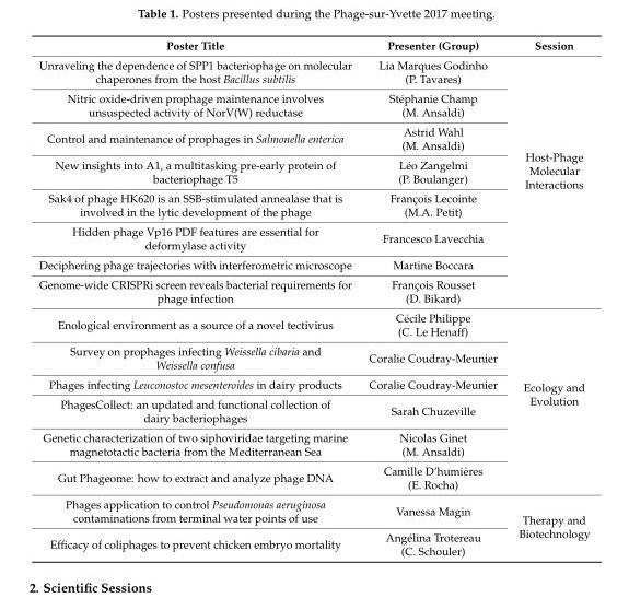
<table><thead><tr><td>Poster Title</td><td>Presenter (Group)</td><td>Session</td></tr></thead><tbody><tr><td>Unraveling the dependence of SPP1 bacteriophage on molecular chaperones from the host Bacillus subtilis</td><td>Lia Marques Godinho (P. Tavares)</td><td rowspan="8">Host-Phage Molecular Interactions</td></tr><tr><td>Nitric oxide-driven prophage maintenance involves unsuspected activity of NorV(W) reductase</td><td>Stéphanie Champ (M. Ansaldi)</td></tr><tr><td>Control and maintenance of prophages in Salmonella enterica</td><td>Astrid Wahl (M. Ansaldi)</td></tr><tr><td>New insights into A1, a multitasking pre-early protein of bacteriophage T5</td><td>Léo Zangelmi (P. Boulanger)</td></tr><tr><td>Sak4 of phage HK620 is an SSB-stimulated annealase that is involved in the lytic development of the phage</td><td>François Lecointe (M.A. Petit)</td></tr><tr><td>Hidden phage Vp16 PDF features are essential for deformylase activity</td><td>Francesco Lavecchia</td></tr><tr><td>Deciphering phage trajectories with interferometric microscope</td><td>Martine Boccara</td></tr><tr><td>Genome-wide CRISPRi screen reveals bacterial requirements for phage infection</td><td>François Rousset (D. Bikard)</td></tr><tr><td>Enological environment as a source of a novel tectivirus</td><td>Cécile Philippe (C. Le Henaff)</td><td rowspan="6">Ecology and Evolution</td></tr><tr><td>Survey on prophages infecting Weissella cibaria and Weissella confusa</td><td>Coralie Coudray-Meunier</td></tr><tr><td>Phages infecting Leuconostoc mesenteroides in dairy products</td><td>Coralie Coudray-Meunier</td></tr><tr><td>PhagesCollect: an updated and functional collection of dairy bacteriophages</td><td>Sarah Chuzeville</td></tr><tr><td>Genetic characterization of two siphoviridae targeting marine magnetotactic bacteria from the Mediterranean Sea</td><td>Nicolas Ginet (M. Ansaldi)</td></tr><tr><td>Gut Phageome: how to extract and analyze phage DNA</td><td>Camille D’humières (E. Rocha)</td></tr><tr><td>Phages application to control Pseudomonas aeruginosa contaminations from terminal water points of use</td><td>Vanessa Magin</td><td rowspan="2">Therapy and Biotechnology</td></tr><tr><td>Efficacy of coliphages to prevent chicken embryo mortality</td><td>Angélina Trotereau (C. Schouler)</td></tr></tbody></table>